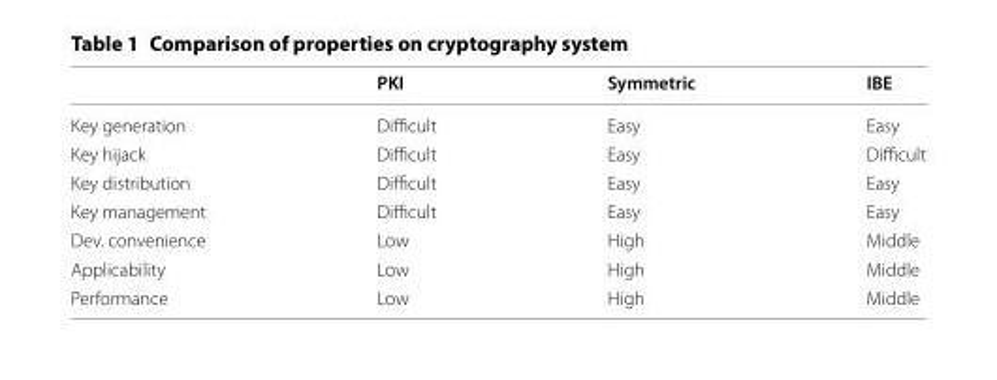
<table><thead><tr><td></td><td>PKI</td><td>Symmetric</td><td>IBE</td></tr></thead><tbody><tr><td>Key generation</td><td>Difficult</td><td>Easy</td><td>Easy</td></tr><tr><td>Key hijack</td><td>Difficult</td><td>Easy</td><td>Difficult</td></tr><tr><td>Key distribution</td><td>Difficult</td><td>Easy</td><td>Easy</td></tr><tr><td>Key management</td><td>Difficult</td><td>Easy</td><td>Easy</td></tr><tr><td>Dev. convenience</td><td>Low</td><td>High</td><td>Middle</td></tr><tr><td>Applicability</td><td>Low</td><td>High</td><td>Middle</td></tr><tr><td>Performance</td><td>Low</td><td>High</td><td>Middle</td></tr></tbody></table>